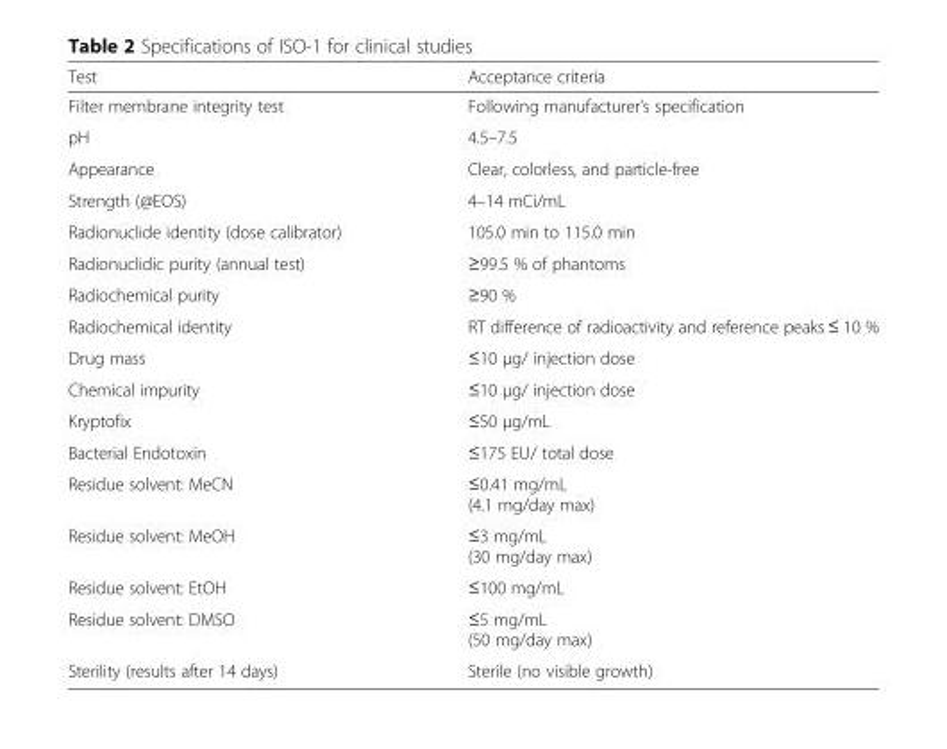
<table><thead><tr><td>Test</td><td>Acceptance criteria</td></tr></thead><tbody><tr><td>Filter membrane integrity test</td><td>Following manufacturer’s specification</td></tr><tr><td>pH</td><td>4.5–7.5</td></tr><tr><td>Appearance</td><td>Clear, colorless, and particle-free</td></tr><tr><td>Strength (@EOS)</td><td>4–14 mCi/mL</td></tr><tr><td>Radionuclide identity (dose calibrator)</td><td>105.0 min to 115.0 min</td></tr><tr><td>Radionuclidic purity (annual test)</td><td>≥99.5 % of phantoms</td></tr><tr><td>Radiochemical purity</td><td>≥90 %</td></tr><tr><td>Radiochemical identity</td><td>RT difference of radioactivity and reference peaks ≤ 10 %</td></tr><tr><td>Drug mass</td><td>≤10 μg/ injection dose</td></tr><tr><td>Chemical impurity</td><td>≤10 μg/ injection dose</td></tr><tr><td>Kryptofix</td><td>≤50 μg/mL</td></tr><tr><td>Bacterial Endotoxin</td><td>≤175 EU/ total dose</td></tr><tr><td>Residue solvent: MeCN</td><td>≤0.41 mg/mL (4.1 mg/day max)</td></tr><tr><td>Residue solvent: MeOH</td><td>≤3 mg/mL (30 mg/day max)</td></tr><tr><td>Residue solvent: EtOH</td><td>≤100 mg/mL</td></tr><tr><td>Residue solvent: DMSO</td><td>≤5 mg/mL (50 mg/day max)</td></tr><tr><td>Sterility (results after 14 days)</td><td>Sterile (no visible growth)</td></tr></tbody></table>